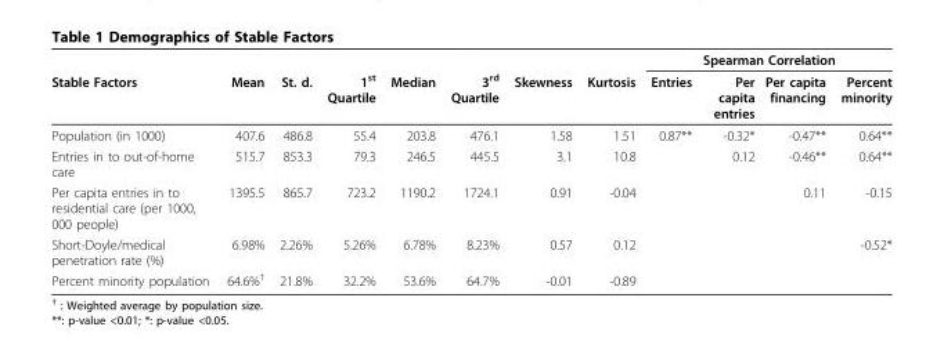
<table><thead><tr><td rowspan="2">Stable Factors</td><td rowspan="2">Mean</td><td rowspan="2">St. d.</td><td rowspan="2">1<sup>st</sup> Quartile</td><td rowspan="2">Median</td><td rowspan="2">3<sup>rd</sup> Quartile</td><td rowspan="2">Skewness</td><td rowspan="2">Kurtosis</td><td colspan="4">Spearman Correlation</td></tr><tr><td>Entries</td><td>Per capita entries</td><td>Per capita financing</td><td>Percent minority</td></tr></thead><tbody><tr><td>Population (in 1000)</td><td>407.6</td><td>486.8</td><td>55.4</td><td>203.8</td><td>476.1</td><td>1.58</td><td>1.51</td><td>0.87**</td><td>-0.32*</td><td>-0.47**</td><td>0.64**</td></tr><tr><td>Entries in to out-of-home care</td><td>515.7</td><td>853.3</td><td>79.3</td><td>246.5</td><td>445.5</td><td>3.1</td><td>10.8</td><td></td><td>0.12</td><td>-0.46**</td><td>0.64**</td></tr><tr><td>Per capita entries in to residential care (per 1000, 000 people)</td><td>1395.5</td><td>865.7</td><td>723.2</td><td>1190.2</td><td>1724.1</td><td>0.91</td><td>-0.04</td><td></td><td></td><td>0.11</td><td>-0.15</td></tr><tr><td>Short-Doyle/medical penetration rate (%)</td><td>6.98%</td><td>2.26%</td><td>5.26%</td><td>6.78%</td><td>8.23%</td><td>0.57</td><td>0.12</td><td></td><td></td><td></td><td>-0.52*</td></tr><tr><td>Percent minority population</td><td>64.6%<sup>†</sup></td><td>21.8%</td><td>32.2%</td><td>53.6%</td><td>64.7%</td><td>-0.01</td><td>-0.89</td><td></td><td></td><td></td><td></td></tr></tbody></table>